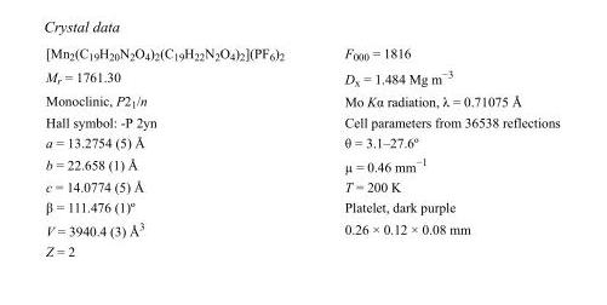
<table><tbody><tr><td>[Mn<sub>2</sub>(C<sub>19</sub>H<sub>20</sub>N<sub>2</sub>O<sub>4</sub>)<sub>2</sub>(C<sub>19</sub>H<sub>22</sub>N<sub>2</sub>O<sub>4</sub>)<sub>2</sub>](PF<sub>6</sub>)<sub>2</sub></td><td>F000 = 1816</td></tr><tr><td>M<sub>r</sub> = 1761.30</td><td>D<sub>x</sub> = 1.484 Mg m<sup>−3</sup></td></tr><tr><td>Monoclinic, P2<sub>1</sub>/n</td><td>Mo Kα radiation, λ = 0.71075 Å</td></tr><tr><td>Hall symbol: -P 2yn</td><td>Cell parameters from 36538 reflections</td></tr><tr><td>a = 13.2754 (5) Å</td><td>θ = 3.1–27.6º</td></tr><tr><td>b = 22.658 (1) Å</td><td>µ = 0.46 mm<sup>−1</sup></td></tr><tr><td>c = 14.0774 (5) Å</td><td>T = 200 K</td></tr><tr><td>β = 111.476 (1)º</td><td>Platelet, dark purple</td></tr><tr><td>V = 3940.4 (3) Å<sup>3</sup></td><td>0.26 × 0.12 × 0.08 mm</td></tr><tr><td>Z = 2</td><td></td></tr></tbody></table>